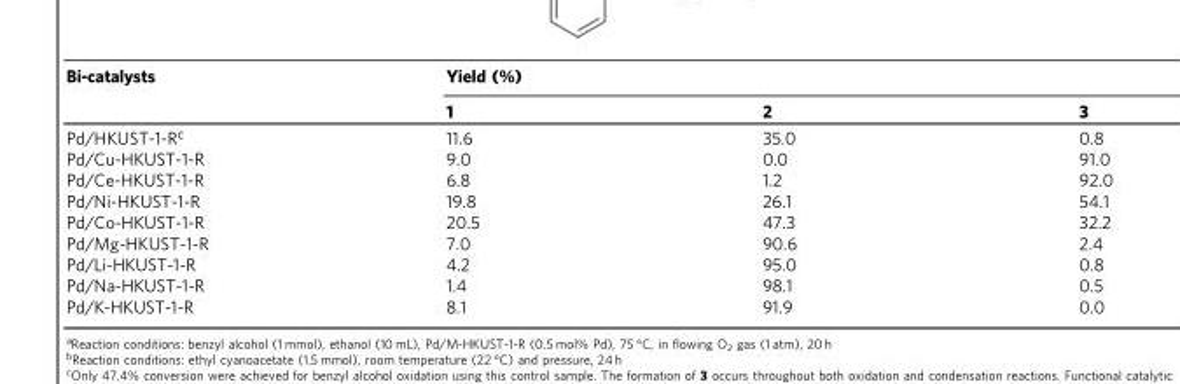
<table><thead><tr><td rowspan="2">Bi-catalysts</td><td colspan="3">Yield (%)</td></tr><tr><td>1</td><td>2</td><td>3</td></tr></thead><tbody><tr><td>Pd/HKUST-1-R<sup>c</sup></td><td>11.6</td><td>35.0</td><td>0.8</td></tr><tr><td>Pd/Cu-HKUST-1-R</td><td>9.0</td><td>0.0</td><td>91.0</td></tr><tr><td>Pd/Ce-HKUST-1-R</td><td>6.8</td><td>1.2</td><td>92.0</td></tr><tr><td>Pd/Ni-HKUST-1-R</td><td>19.8</td><td>26.1</td><td>54.1</td></tr><tr><td>Pd/Co-HKUST-1-R</td><td>20.5</td><td>47.3</td><td>32.2</td></tr><tr><td>Pd/Mg-HKUST-1-R</td><td>7.0</td><td>90.6</td><td>2.4</td></tr><tr><td>Pd/Li-HKUST-1-R</td><td>4.2</td><td>95.0</td><td>0.8</td></tr><tr><td>Pd/Na-HKUST-1-R</td><td>1.4</td><td>98.1</td><td>0.5</td></tr><tr><td>Pd/K-HKUST-1-R</td><td>8.1</td><td>91.9</td><td>0.0</td></tr></tbody></table>